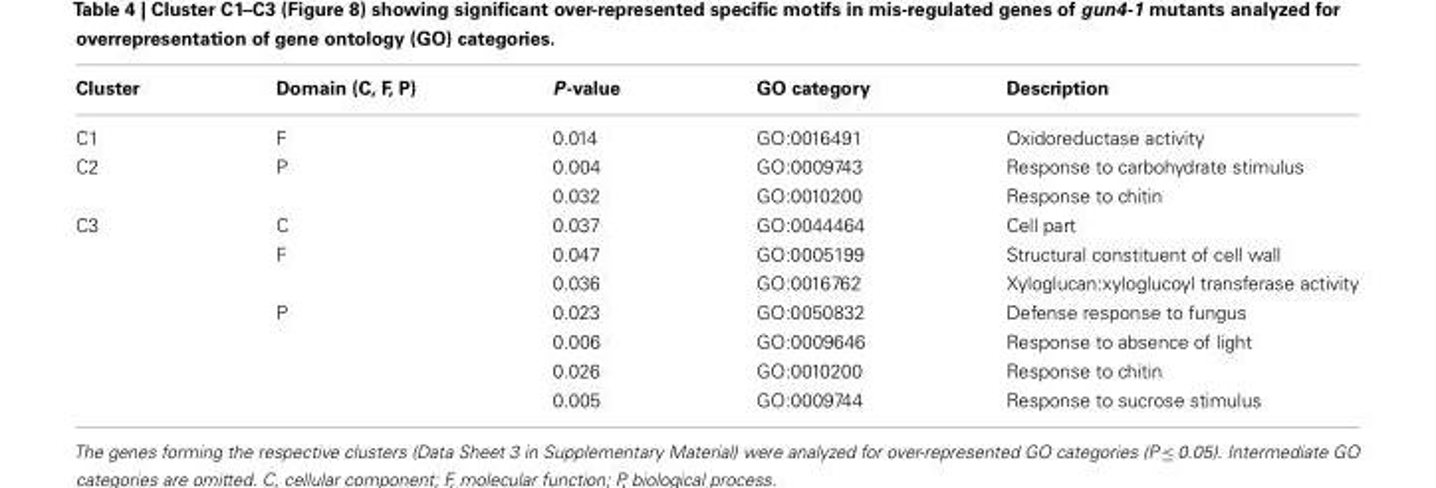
<table><thead><tr><td>Cluster</td><td>Domain (C, F, P)</td><td>P-value</td><td>GO category</td><td>Description</td></tr></thead><tbody><tr><td>C1</td><td>F</td><td>0.014</td><td>GO:0016491</td><td>Oxidoreductase activity</td></tr><tr><td rowspan="2">C2</td><td>P</td><td>0.004</td><td>GO:0009743</td><td>Response to carbohydrate stimulus</td></tr><tr><td></td><td>0.032</td><td>GO:0010200</td><td>Response to chitin</td></tr><tr><td rowspan="7">C3</td><td>C</td><td>0.037</td><td>GO:0044464</td><td>Cell part</td></tr><tr><td>F</td><td>0.047</td><td>GO:0005199</td><td>Structural constituent of cell wall</td></tr><tr><td></td><td>0.036</td><td>GO:0016762</td><td>Xyloglucan:xyloglucoyl transferase activity</td></tr><tr><td>P</td><td>0.023</td><td>GO:0050832</td><td>Defense response to fungus</td></tr><tr><td></td><td>0.006</td><td>GO:0009646</td><td>Response to absence of light</td></tr><tr><td></td><td>0.026</td><td>GO:0010200</td><td>Response to chitin</td></tr><tr><td></td><td>0.005</td><td>GO:0009744</td><td>Response to sucrose stimulus</td></tr></tbody></table>